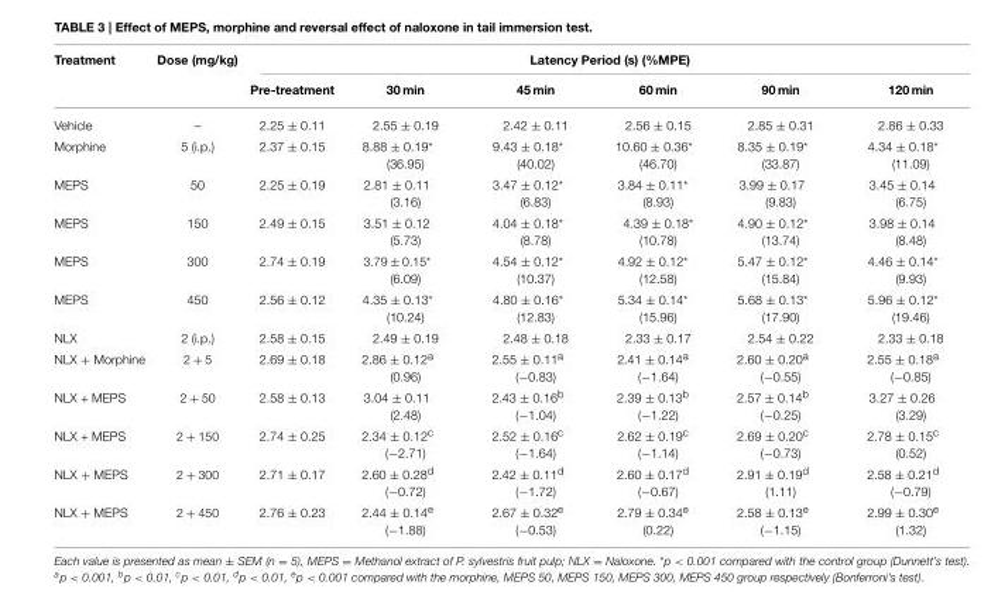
<table><thead><tr><td rowspan="2">Treatment</td><td rowspan="2">Dose (mg/kg)</td><td colspan="6">Latency Period (s) (%MPE)</td></tr><tr><td>Pre-treatment</td><td>30 min</td><td>45 min</td><td>60 min</td><td>90 min</td><td>120 min</td></tr></thead><tbody><tr><td>Vehicle</td><td>–</td><td>2.25 ± 0.11</td><td>2.55 ± 0.19</td><td>2.42 ± 0.11</td><td>2.56 ± 0.15</td><td>2.85 ± 0.31</td><td>2.86 ± 0.33</td></tr><tr><td>Morphine</td><td>5 (i.p.)</td><td>2.37 ± 0.15</td><td>8.88 ± 0.19* (36.95)</td><td>9.43 ± 0.18* (40.02)</td><td>10.60 ± 0.36* (46.70)</td><td>8.35 ± 0.19* (33.87)</td><td>4.34 ± 0.18* (11.09)</td></tr><tr><td>MEPS</td><td>50</td><td>2.25 ± 0.19</td><td>2.81 ± 0.11 (3.16)</td><td>3.47 ± 0.12* (6.83)</td><td>3.84 ± 0.11* (8.93)</td><td>3.99 ± 0.17 (9.83)</td><td>3.45 ± 0.14 (6.75)</td></tr><tr><td>MEPS</td><td>150</td><td>2.49 ± 0.15</td><td>3.51 ± 0.12 (5.73)</td><td>4.04 ± 0.18* (8.78)</td><td>4.39 ± 0.18* (10.78)</td><td>4.90 ± 0.12* (13.74)</td><td>3.98 ± 0.14 (8.48)</td></tr><tr><td>MEPS</td><td>300</td><td>2.74 ± 0.19</td><td>3.79 ± 0.15* (6.09)</td><td>4.54 ± 0.12* (10.37)</td><td>4.92 ± 0.12* (12.58)</td><td>5.47 ± 0.12* (15.84)</td><td>4.46 ± 0.14* (9.93)</td></tr><tr><td>MEPS</td><td>450</td><td>2.56 ± 0.12</td><td>4.35 ± 0.13* (10.24)</td><td>4.80 ± 0.16* (12.83)</td><td>5.34 ± 0.14* (15.96)</td><td>5.68 ± 0.13* (17.90)</td><td>5.96 ± 0.12* (19.46)</td></tr><tr><td>NLX</td><td>2 (i.p.)</td><td>2.58 ± 0.15</td><td>2.49 ± 0.19</td><td>2.48 ± 0.18</td><td>2.33 ± 0.17</td><td>2.54 ± 0.22</td><td>2.33 ± 0.18</td></tr><tr><td>NLX + Morphine</td><td>2 + 5</td><td>2.69 ± 0.18</td><td>2.86 ± 0.12<sup>a</sup> (0.96)</td><td>2.55 ± 0.11<sup>a</sup> (−0.83)</td><td>2.41 ± 0.14<sup>a</sup> (−1.64)</td><td>2.60 ± 0.20<sup>a</sup> (−0.55)</td><td>2.55 ± 0.18<sup>a</sup> (−0.85)</td></tr><tr><td>NLX + MEPS</td><td>2 + 50</td><td>2.58 ± 0.13</td><td>3.04 ± 0.11 (2.48)</td><td>2.43 ± 0.16<sup>b</sup> (−1.04)</td><td>2.39 ± 0.13<sup>b</sup> (−1.22)</td><td>2.57 ± 0.14<sup>b</sup> (−0.25)</td><td>3.27 ± 0.26 (3.29)</td></tr><tr><td>NLX + MEPS</td><td>2 + 150</td><td>2.74 ± 0.25</td><td>2.34 ± 0.12<sup>c</sup> (−2.71)</td><td>2.52 ± 0.16<sup>c</sup> (−1.64)</td><td>2.62 ± 0.19<sup>c</sup> (−1.14)</td><td>2.69 ± 0.20<sup>c</sup> (−0.73)</td><td>2.78 ± 0.15<sup>c</sup> (0.52)</td></tr><tr><td>NLX + MEPS</td><td>2 + 300</td><td>2.71 ± 0.17</td><td>2.60 ± 0.28<sup>d</sup> (−0.72)</td><td>2.42 ± 0.11<sup>d</sup> (−1.72)</td><td>2.60 ± 0.17<sup>d</sup> (−0.67)</td><td>2.91 ± 0.19<sup>d</sup> (1.11)</td><td>2.58 ± 0.21<sup>d</sup> (−0.79)</td></tr><tr><td>NLX + MEPS</td><td>2 + 450</td><td>2.76 ± 0.23</td><td>2.44 ± 0.14<sup>e</sup> (−1.88)</td><td>2.67 ± 0.32<sup>e</sup> (−0.53)</td><td>2.79 ± 0.34<sup>e</sup> (0.22)</td><td>2.58 ± 0.13<sup>e</sup> (−1.15)</td><td>2.99 ± 0.30<sup>e</sup> (1.32)</td></tr></tbody></table>